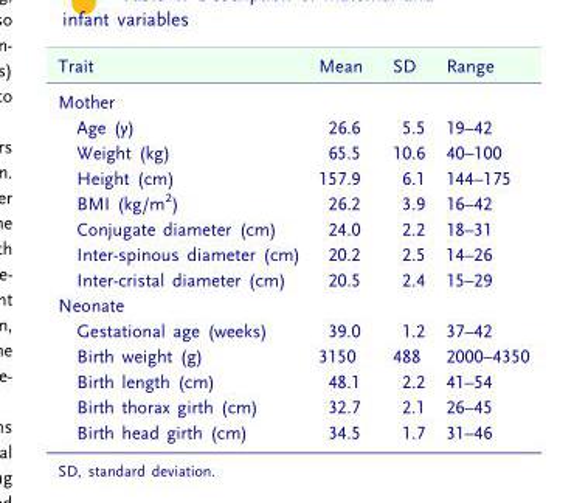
<table><thead><tr><td>Trait</td><td>Mean</td><td>SD</td><td>Range</td></tr></thead><tbody><tr><td colspan="4">Mother</td></tr><tr><td>Age (y)</td><td>26.6</td><td>5.5</td><td>19–42</td></tr><tr><td>Weight (kg)</td><td>65.5</td><td>10.6</td><td>40–100</td></tr><tr><td>Height (cm)</td><td>157.9</td><td>6.1</td><td>144–175</td></tr><tr><td>BMI (kg/m<sup>2</sup>)</td><td>26.2</td><td>3.9</td><td>16–42</td></tr><tr><td>Conjugate diameter (cm)</td><td>24.0</td><td>2.2</td><td>18–31</td></tr><tr><td>Inter-spinous diameter (cm)</td><td>20.2</td><td>2.5</td><td>14–26</td></tr><tr><td>Inter-cristal diameter (cm)</td><td>20.5</td><td>2.4</td><td>15–29</td></tr><tr><td colspan="4">Neonate</td></tr><tr><td>Gestational age (weeks)</td><td>39.0</td><td>1.2</td><td>37–42</td></tr><tr><td>Birth weight (g)</td><td>3150</td><td>488</td><td>2000–4350</td></tr><tr><td>Birth length (cm)</td><td>48.1</td><td>2.2</td><td>41–54</td></tr><tr><td>Birth thorax girth (cm)</td><td>32.7</td><td>2.1</td><td>26–45</td></tr><tr><td>Birth head girth (cm)</td><td>34.5</td><td>1.7</td><td>31–46</td></tr></tbody></table>